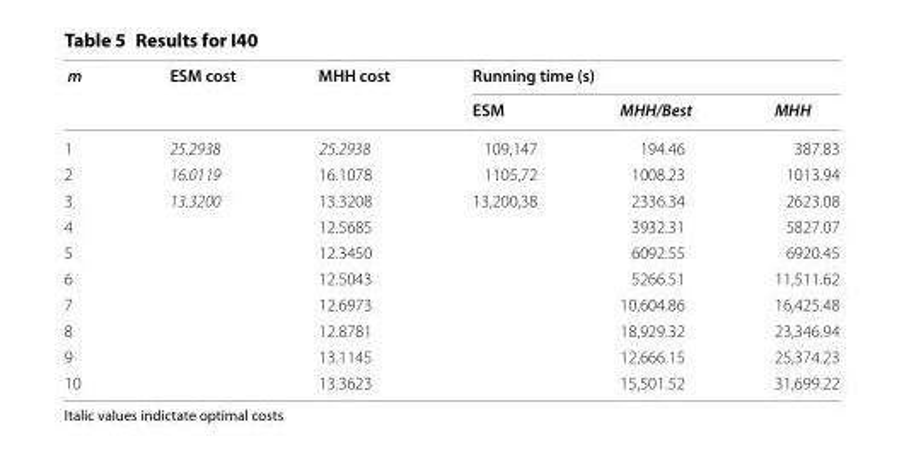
<table><thead><tr><td rowspan="2">m</td><td rowspan="2">ESM cost</td><td rowspan="2">MHH cost</td><td colspan="3">Running time (s)</td></tr><tr><td>ESM</td><td>MHH/Best</td><td>MHH</td></tr></thead><tbody><tr><td>1</td><td>25.2938</td><td>25.2938</td><td>109,147</td><td>194.46</td><td>387.83</td></tr><tr><td>2</td><td>16.0119</td><td>16.1078</td><td>1105,72</td><td>1008.23</td><td>1013.94</td></tr><tr><td>3</td><td>13.3200</td><td>13.3208</td><td>13,200,38</td><td>2336.34</td><td>2623.08</td></tr><tr><td>4</td><td></td><td>12.5685</td><td></td><td>3932.31</td><td>5827.07</td></tr><tr><td>5</td><td></td><td>12.3450</td><td></td><td>6092.55</td><td>6920.45</td></tr><tr><td>6</td><td></td><td>12.5043</td><td></td><td>5266.51</td><td>11,511.62</td></tr><tr><td>7</td><td></td><td>12.6973</td><td></td><td>10,604.86</td><td>16,425.48</td></tr><tr><td>8</td><td></td><td>12.8781</td><td></td><td>18,929.32</td><td>23,346.94</td></tr><tr><td>9</td><td></td><td>13.1145</td><td></td><td>12,666.15</td><td>25,374.23</td></tr><tr><td>10</td><td></td><td>13.3623</td><td></td><td>15,501.52</td><td>31,699.22</td></tr></tbody></table>